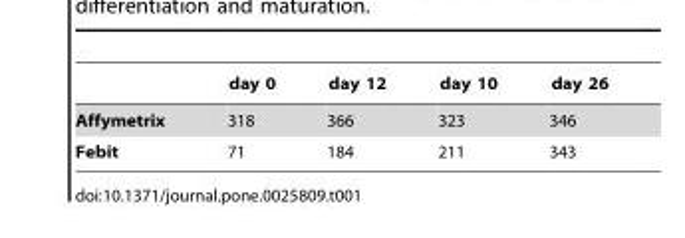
<table><thead><tr><td></td><td>day 0</td><td>day 12</td><td>day 10</td><td>day 26</td></tr></thead><tbody><tr><td>Affymetrix</td><td>318</td><td>366</td><td>323</td><td>346</td></tr><tr><td>Febit</td><td>71</td><td>184</td><td>211</td><td>343</td></tr></tbody></table>